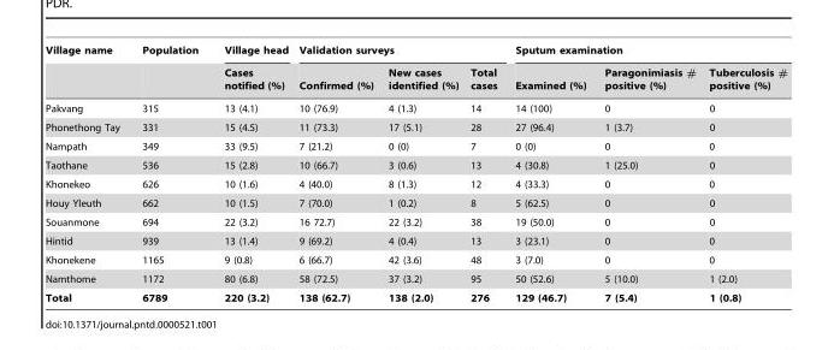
<table><thead><tr><td rowspan="2">Village name</td><td rowspan="2">Population</td><td rowspan="2">Village head Cases notified (%)</td><td colspan="3">Validation surveys</td><td colspan="3">Sputum examination</td></tr><tr><td>Confirmed (%)</td><td>New cases identified (%)</td><td>Total cases</td><td>Examined (%)</td><td>Paragonimiasis # positive (%)</td><td>Tuberculosis # positive (%)</td></tr></thead><tbody><tr><td>Pakvang</td><td>315</td><td>13 (4.1)</td><td>10 (76.9)</td><td>4 (1.3)</td><td>14</td><td>14 (100)</td><td>0</td><td>0</td></tr><tr><td>Phonethong Tay</td><td>331</td><td>15 (4.5)</td><td>11 (73.3)</td><td>17 (5.1)</td><td>28</td><td>27 (96.4)</td><td>1 (3.7)</td><td>0</td></tr><tr><td>Nampath</td><td>349</td><td>33 (9.5)</td><td>7 (21.2)</td><td>0 (0)</td><td>7</td><td>0 (0)</td><td>0</td><td>0</td></tr><tr><td>Taothane</td><td>536</td><td>15 (2.8)</td><td>10 (66.7)</td><td>3 (0.6)</td><td>13</td><td>4 (30.8)</td><td>1 (25.0)</td><td>0</td></tr><tr><td>Khonekeo</td><td>626</td><td>10 (1.6)</td><td>4 (40.0)</td><td>8 (1.3)</td><td>12</td><td>4 (33.3)</td><td>0</td><td>0</td></tr><tr><td>Houy Yleuth</td><td>662</td><td>10 (1.5)</td><td>7 (70.0)</td><td>1 (0.2)</td><td>8</td><td>5 (62.5)</td><td>0</td><td>0</td></tr><tr><td>Souanmone</td><td>694</td><td>22 (3.2)</td><td>16 72.7)</td><td>22 (3.2)</td><td>38</td><td>19 (50.0)</td><td>0</td><td>0</td></tr><tr><td>Hintid</td><td>939</td><td>13 (1.4)</td><td>9 (69.2)</td><td>4 (0.4)</td><td>13</td><td>3 (23.1)</td><td>0</td><td>0</td></tr><tr><td>Khonekene</td><td>1165</td><td>9 (0.8)</td><td>6 (66.7)</td><td>42 (3.6)</td><td>48</td><td>3 (7.0)</td><td>0</td><td>0</td></tr><tr><td>Namthome</td><td>1172</td><td>80 (6.8)</td><td>58 (72.5)</td><td>37 (3.2)</td><td>95</td><td>50 (52.6)</td><td>5 (10.0)</td><td>1 (2.0)</td></tr><tr><td>Total</td><td>6789</td><td>220 (3.2)</td><td>138 (62.7)</td><td>138 (2.0)</td><td>276</td><td>129 (46.7)</td><td>7 (5.4)</td><td>1 (0.8)</td></tr></tbody></table>